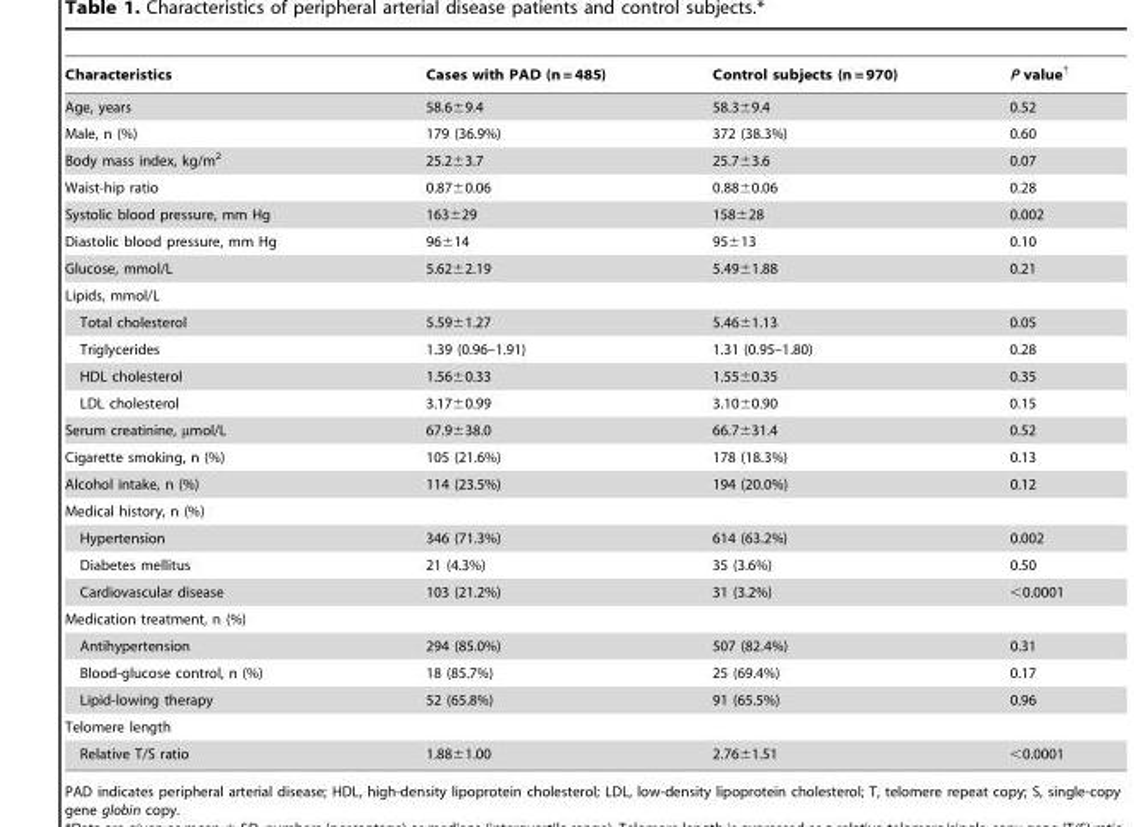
<table><thead><tr><td>Characteristics</td><td>Cases with PAD (n = 485)</td><td>Control subjects (n = 970)</td><td>P value†</td></tr></thead><tbody><tr><td>Age, years</td><td>58.6±9.4</td><td>58.3±9.4</td><td>0.52</td></tr><tr><td>Male, n (%)</td><td>179 (36.9%)</td><td>372 (38.3%)</td><td>0.60</td></tr><tr><td>Body mass index, kg/m<sup>2</sup></td><td>25.2±3.7</td><td>25.7±3.6</td><td>0.07</td></tr><tr><td>Waist-hip ratio</td><td>0.87±0.06</td><td>0.88±0.06</td><td>0.28</td></tr><tr><td>Systolic blood pressure, mm Hg</td><td>163±29</td><td>158±28</td><td>0.002</td></tr><tr><td>Diastolic blood pressure, mm Hg</td><td>96±14</td><td>95±13</td><td>0.10</td></tr><tr><td>Glucose, mmol/L</td><td>5.62±2.19</td><td>5.49±1.88</td><td>0.21</td></tr><tr><td colspan="4">Lipids, mmol/L</td></tr><tr><td>Total cholesterol</td><td>5.59±1.27</td><td>5.46±1.13</td><td>0.05</td></tr><tr><td>Triglycerides</td><td>1.39 (0.96–1.91)</td><td>1.31 (0.95–1.80)</td><td>0.28</td></tr><tr><td>HDL cholesterol</td><td>1.56±0.33</td><td>1.55±0.35</td><td>0.35</td></tr><tr><td>LDL cholesterol</td><td>3.17±0.99</td><td>3.10±0.90</td><td>0.15</td></tr><tr><td>Serum creatinine, µmol/L</td><td>67.9±38.0</td><td>66.7±31.4</td><td>0.52</td></tr><tr><td>Cigarette smoking, n (%)</td><td>105 (21.6%)</td><td>178 (18.3%)</td><td>0.13</td></tr><tr><td>Alcohol intake, n (%)</td><td>114 (23.5%)</td><td>194 (20.0%)</td><td>0.12</td></tr><tr><td colspan="4">Medical history, n (%)</td></tr><tr><td>Hypertension</td><td>346 (71.3%)</td><td>614 (63.2%)</td><td>0.002</td></tr><tr><td>Diabetes mellitus</td><td>21 (4.3%)</td><td>35 (3.6%)</td><td>0.50</td></tr><tr><td>Cardiovascular disease</td><td>103 (21.2%)</td><td>31 (3.2%)</td><td>&lt;0.0001</td></tr><tr><td colspan="4">Medication treatment, n (%)</td></tr><tr><td>Antihypertension</td><td>294 (85.0%)</td><td>507 (82.4%)</td><td>0.31</td></tr><tr><td>Blood-glucose control, n (%)</td><td>18 (85.7%)</td><td>25 (69.4%)</td><td>0.17</td></tr><tr><td>Lipid-lowing therapy</td><td>52 (65.8%)</td><td>91 (65.5%)</td><td>0.96</td></tr><tr><td colspan="4">Telomere length</td></tr><tr><td>Relative T/S ratio</td><td>1.88±1.00</td><td>2.76±1.51</td><td>&lt;0.0001</td></tr></tbody></table>